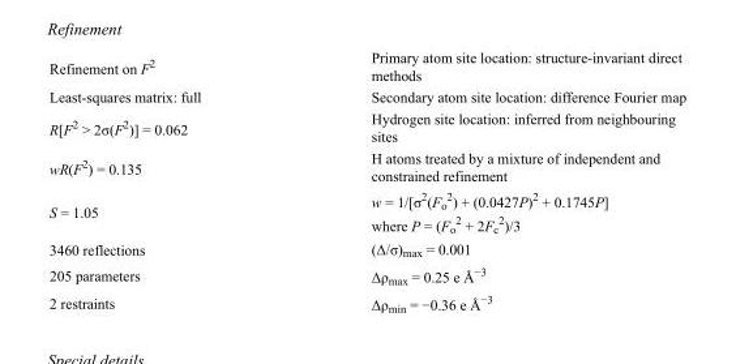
<table><tbody><tr><td>Refinement on F<sup>2</sup></td><td>Primary atom site location: structure-invariant direct methods</td></tr><tr><td>Least-squares matrix: full</td><td>Secondary atom site location: difference Fourier map</td></tr><tr><td>R[F<sup>2</sup> &gt; 2σ(F<sup>2</sup>)] = 0.062</td><td>Hydrogen site location: inferred from neighbouring sites</td></tr><tr><td>wR(F<sup>2</sup>) = 0.135</td><td>H atoms treated by a mixture of independent and constrained refinement</td></tr><tr><td>S = 1.05</td><td>w = 1/[σ<sup>2</sup>(F<sub>o</sub> <sup>2</sup>) + (0.0427P)<sup>2</sup> + 0.1745P] where P = (F<sub>o</sub> <sup>2</sup> + 2F<sub>c</sub> <sup>2</sup>)/3</td></tr><tr><td>3460 reflections</td><td>(Δ/σ)<sub>max</sub> = 0.001</td></tr><tr><td>205 parameters</td><td>Δρ<sub>max</sub> = 0.25 e Å<sup>−3</sup></td></tr><tr><td>2 restraints</td><td>Δρ<sub>min</sub> = −0.36 e Å<sup>−3</sup></td></tr></tbody></table>